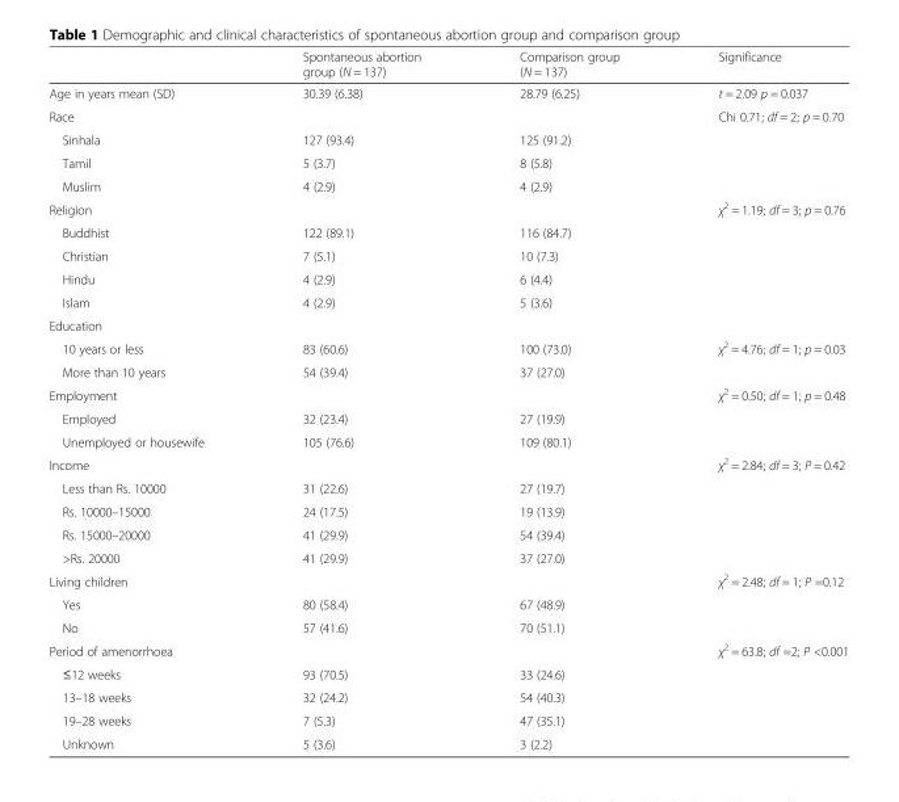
<table><thead><tr><td></td><td>Spontaneous abortion group (N = 137)</td><td>Comparison group (N = 137)</td><td>Significance</td></tr></thead><tbody><tr><td>Age in years mean (SD)</td><td>30.39 (6.38)</td><td>28.79 (6.25)</td><td>t = 2.09 p = 0.037</td></tr><tr><td colspan="3">Race</td><td rowspan="4">Chi 0.71; df = 2; p = 0.70</td></tr><tr><td>Sinhala</td><td>127 (93.4)</td><td>125 (91.2)</td></tr><tr><td>Tamil</td><td>5 (3.7)</td><td>8 (5.8)</td></tr><tr><td>Muslim</td><td>4 (2.9)</td><td>4 (2.9)</td></tr><tr><td colspan="3">Religion</td><td rowspan="5">χ<sup>2</sup> = 1.19; df = 3; p = 0.76</td></tr><tr><td>Buddhist</td><td>122 (89.1)</td><td>116 (84.7)</td></tr><tr><td>Christian</td><td>7 (5.1)</td><td>10 (7.3)</td></tr><tr><td>Hindu</td><td>4 (2.9)</td><td>6 (4.4)</td></tr><tr><td>Islam</td><td>4 (2.9)</td><td>5 (3.6)</td></tr><tr><td colspan="4">Education</td></tr><tr><td>10 years or less</td><td>83 (60.6)</td><td>100 (73.0)</td><td rowspan="2">χ<sup>2</sup> = 4.76; df = 1; p = 0.03</td></tr><tr><td>More than 10 years</td><td>54 (39.4)</td><td>37 (27.0)</td></tr><tr><td colspan="3">Employment</td><td rowspan="3">χ<sup>2</sup> = 0.50; df = 1; p = 0.48</td></tr><tr><td>Employed</td><td>32 (23.4)</td><td>27 (19.9)</td></tr><tr><td>Unemployed or housewife</td><td>105 (76.6)</td><td>109 (80.1)</td></tr><tr><td colspan="3">Income</td><td rowspan="5">χ<sup>2</sup> = 2.84; df = 3; P = 0.42</td></tr><tr><td>Less than Rs. 10000</td><td>31 (22.6)</td><td>27 (19.7)</td></tr><tr><td>Rs. 10000–15000</td><td>24 (17.5)</td><td>19 (13.9)</td></tr><tr><td>Rs. 15000–20000</td><td>41 (29.9)</td><td>54 (39.4)</td></tr><tr><td>&gt;Rs. 20000</td><td>41 (29.9)</td><td>37 (27.0)</td></tr><tr><td colspan="3">Living children</td><td rowspan="3">χ<sup>2</sup> = 2.48; df = 1; P =0.12</td></tr><tr><td>Yes</td><td>80 (58.4)</td><td>67 (48.9)</td></tr><tr><td>No</td><td>57 (41.6)</td><td>70 (51.1)</td></tr><tr><td colspan="3">Period of amenorrhoea</td><td rowspan="5">χ<sup>2</sup> = 63.8; df =2; P &lt;0.001</td></tr><tr><td>≤12 weeks</td><td>93 (70.5)</td><td>33 (24.6)</td></tr><tr><td>13–18 weeks</td><td>32 (24.2)</td><td>54 (40.3)</td></tr><tr><td>19–28 weeks</td><td>7 (5.3)</td><td>47 (35.1)</td></tr><tr><td>Unknown</td><td>5 (3.6)</td><td>3 (2.2)</td></tr></tbody></table>